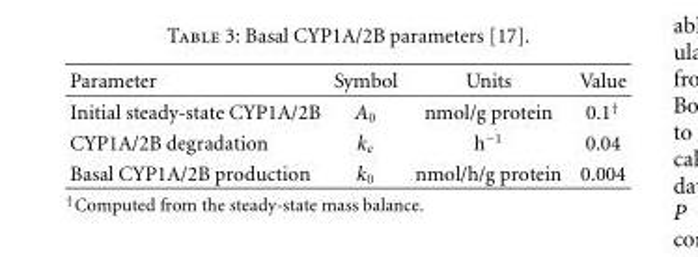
<table><thead><tr><td>Parameter</td><td>Symbol</td><td>Units</td><td>Value</td></tr></thead><tbody><tr><td>Initial steady-state CYP1A/2B</td><td>A<sub>0</sub></td><td>nmol/g protein</td><td>0.1<sup>†</sup></td></tr><tr><td>CYP1A/2B degradation</td><td>k<sub>e</sub></td><td>h<sup>−1</sup></td><td>0.04</td></tr><tr><td>Basal CYP1A/2B production</td><td>k<sub>0</sub></td><td>nmol/h/g protein</td><td>0.004</td></tr></tbody></table>